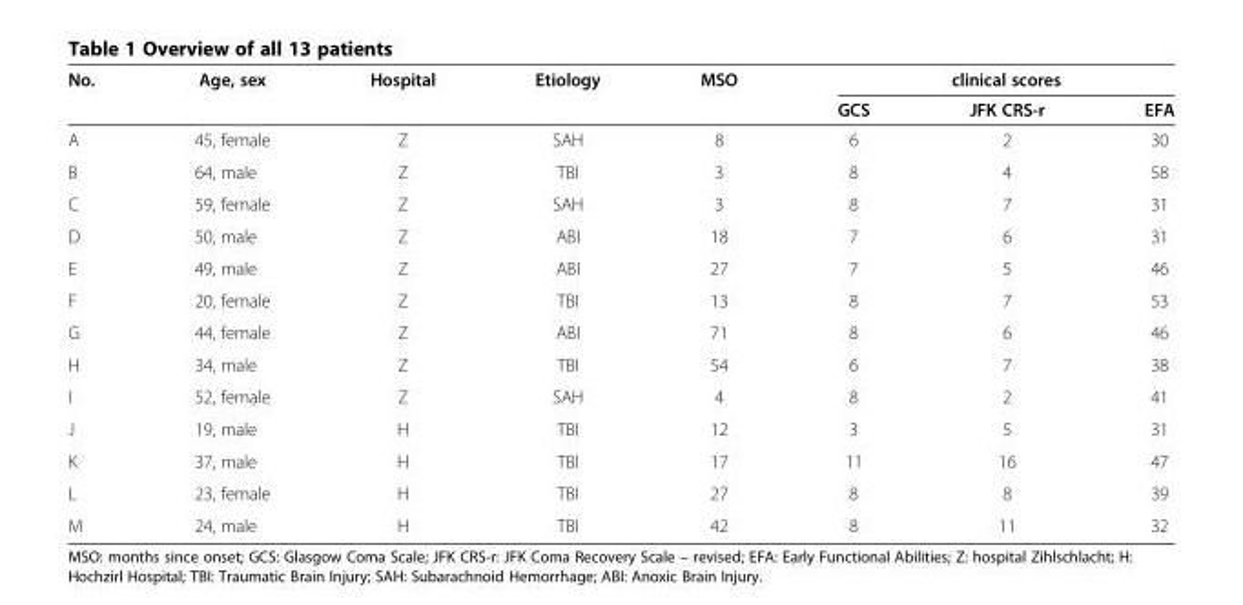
<table><thead><tr><td rowspan="2">No.</td><td rowspan="2">Age, sex</td><td rowspan="2">Hospital</td><td rowspan="2">Etiology</td><td rowspan="2">MSO</td><td colspan="3">clinical scores</td></tr><tr><td>GCS</td><td>JFK CRS-r</td><td>EFA</td></tr></thead><tbody><tr><td>A</td><td>45, female</td><td>Z</td><td>SAH</td><td>8</td><td>6</td><td>2</td><td>30</td></tr><tr><td>B</td><td>64, male</td><td>Z</td><td>TBI</td><td>3</td><td>8</td><td>4</td><td>58</td></tr><tr><td>C</td><td>59, female</td><td>Z</td><td>SAH</td><td>3</td><td>8</td><td>7</td><td>31</td></tr><tr><td>D</td><td>50, male</td><td>Z</td><td>ABI</td><td>18</td><td>7</td><td>6</td><td>31</td></tr><tr><td>E</td><td>49, male</td><td>Z</td><td>ABI</td><td>27</td><td>7</td><td>5</td><td>46</td></tr><tr><td>F</td><td>20, female</td><td>Z</td><td>TBI</td><td>13</td><td>8</td><td>7</td><td>53</td></tr><tr><td>G</td><td>44, female</td><td>Z</td><td>ABI</td><td>71</td><td>8</td><td>6</td><td>46</td></tr><tr><td>H</td><td>34, male</td><td>Z</td><td>TBI</td><td>54</td><td>6</td><td>7</td><td>38</td></tr><tr><td>I</td><td>52, female</td><td>Z</td><td>SAH</td><td>4</td><td>8</td><td>2</td><td>41</td></tr><tr><td>J</td><td>19, male</td><td>H</td><td>TBI</td><td>12</td><td>3</td><td>5</td><td>31</td></tr><tr><td>K</td><td>37, male</td><td>H</td><td>TBI</td><td>17</td><td>11</td><td>16</td><td>47</td></tr><tr><td>L</td><td>23, female</td><td>H</td><td>TBI</td><td>27</td><td>8</td><td>8</td><td>39</td></tr><tr><td>M</td><td>24, male</td><td>H</td><td>TBI</td><td>42</td><td>8</td><td>11</td><td>32</td></tr></tbody></table>